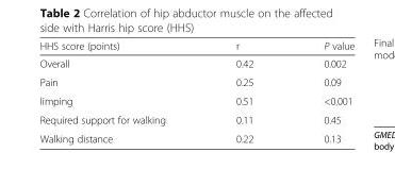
<table><thead><tr><td>HHS score (points)</td><td>r</td><td>P value</td></tr></thead><tbody><tr><td>Overall</td><td>0.42</td><td>0.002</td></tr><tr><td>Pain</td><td>0.25</td><td>0.09</td></tr><tr><td>limping</td><td>0.51</td><td>&lt;0.001</td></tr><tr><td>Required support for walking</td><td>0.11</td><td>0.45</td></tr><tr><td>Walking distance</td><td>0.22</td><td>0.13</td></tr></tbody></table>